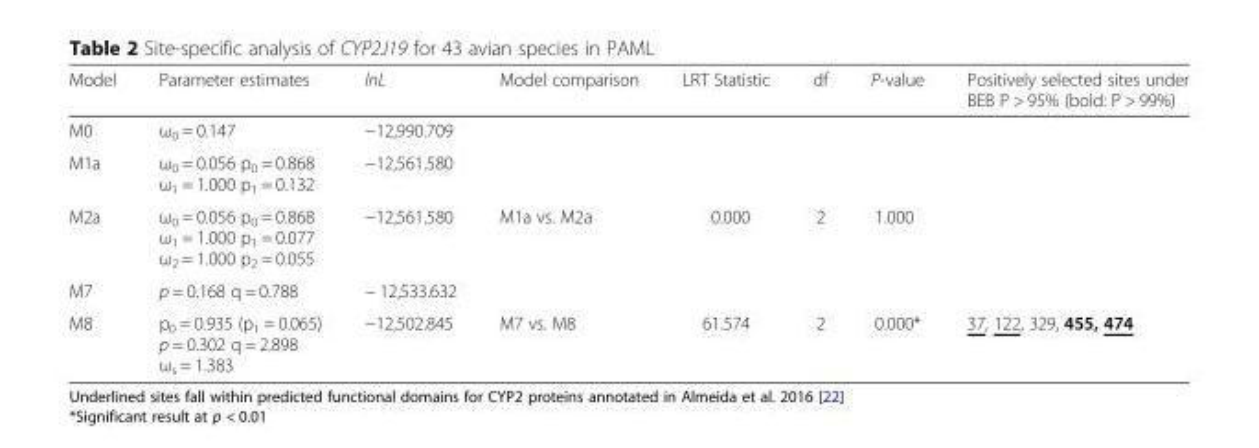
<table><thead><tr><td>Model</td><td>Parameter estimates</td><td>lnL</td><td>Model comparison</td><td>LRT Statistic</td><td>df</td><td>P-value</td><td>Positively selected sites under BEB P &gt; 95% (bold: P &gt; 99%)</td></tr></thead><tbody><tr><td>M0</td><td>ω<sub>0</sub> = 0.147</td><td>−12,990.709</td><td></td><td></td><td></td><td></td><td></td></tr><tr><td>M1a</td><td>ω<sub>0</sub> = 0.056 p<sub>0</sub> = 0.868 ω<sub>1</sub> = 1.000 p<sub>1</sub> = 0.132</td><td>−12,561.580</td><td></td><td></td><td></td><td></td><td></td></tr><tr><td>M2a</td><td>ω<sub>0</sub> = 0.056 p<sub>0</sub> = 0.868 ω<sub>1</sub> = 1.000 p<sub>1</sub> = 0.077 ω<sub>2</sub> = 1.000 p<sub>2</sub> = 0.055</td><td>−12,561.580</td><td>M1a vs. M2a</td><td>0.000</td><td>2</td><td>1.000</td><td></td></tr><tr><td>M7</td><td>p = 0.168 q = 0.788</td><td>− 12,533.632</td><td></td><td></td><td></td><td></td><td></td></tr><tr><td>M8</td><td>p<sub>0</sub> = 0.935 (p<sub>1</sub> = 0.065) p = 0.302 q = 2.898 ω<sub>s</sub> = 1.383</td><td>−12,502.845</td><td>M7 vs. M8</td><td>61.574</td><td>2</td><td>0.000*</td><td>37, 122, 329, 455, 474</td></tr></tbody></table>